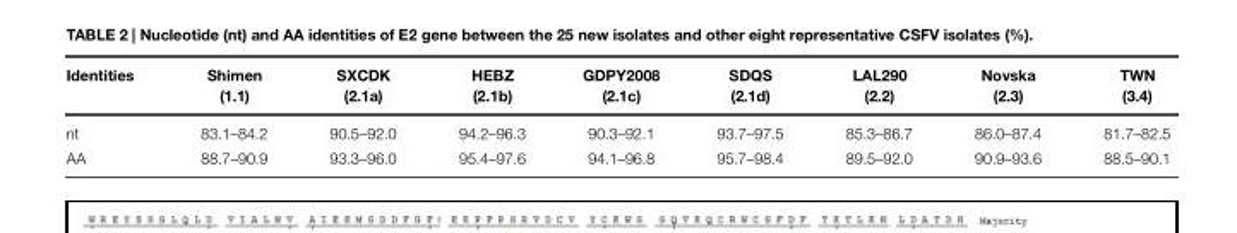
<table><thead><tr><td>Identities</td><td>Shimen (1.1)</td><td>SXCDK (2.1a)</td><td>HEBZ (2.1b)</td><td>GDPY2008 (2.1c)</td><td>SDQS (2.1d)</td><td>LAL290 (2.2)</td><td>Novska (2.3)</td><td>TWN (3.4)</td></tr></thead><tbody><tr><td>nt</td><td>83.1–84.2</td><td>90.5–92.0</td><td>94.2–96.3</td><td>90.3–92.1</td><td>93.7–97.5</td><td>85.3–86.7</td><td>86.0–87.4</td><td>81.7–82.5</td></tr><tr><td>AA</td><td>88.7–90.9</td><td>93.3–96.0</td><td>95.4–97.6</td><td>94.1–96.8</td><td>95.7–98.4</td><td>89.5–92.0</td><td>90.9–93.6</td><td>88.5–90.1</td></tr></tbody></table>